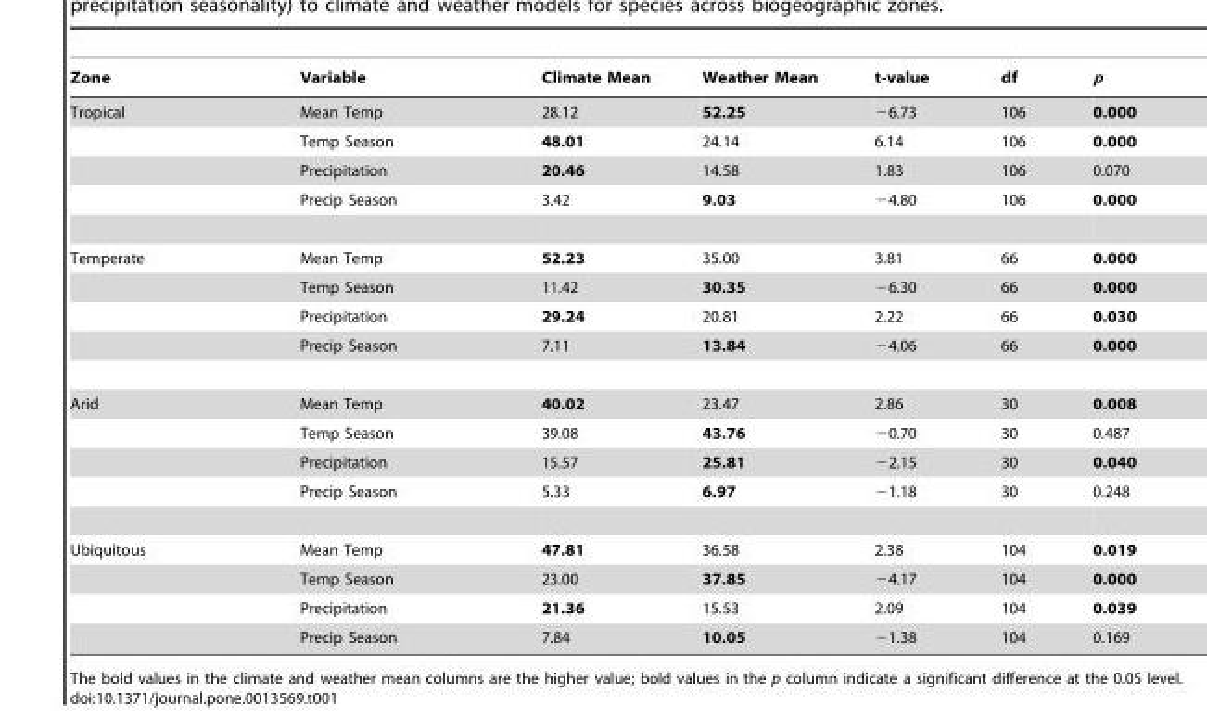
<table><thead><tr><td>Zone</td><td>Variable</td><td>Climate Mean</td><td>Weather Mean</td><td>t-value</td><td>df</td><td>p</td></tr></thead><tbody><tr><td rowspan="4">Tropical</td><td>Mean Temp</td><td>28.12</td><td>52.25</td><td>−6.73</td><td>106</td><td>0.000</td></tr><tr><td>Temp Season</td><td>48.01</td><td>24.14</td><td>6.14</td><td>106</td><td>0.000</td></tr><tr><td>Precipitation</td><td>20.46</td><td>14.58</td><td>1.83</td><td>106</td><td>0.070</td></tr><tr><td>Precip Season</td><td>3.42</td><td>9.03</td><td>−4.80</td><td>106</td><td>0.000</td></tr><tr><td rowspan="4">Temperate</td><td>Mean Temp</td><td>52.23</td><td>35.00</td><td>3.81</td><td>66</td><td>0.000</td></tr><tr><td>Temp Season</td><td>11.42</td><td>30.35</td><td>−6.30</td><td>66</td><td>0.000</td></tr><tr><td>Precipitation</td><td>29.24</td><td>20.81</td><td>2.22</td><td>66</td><td>0.030</td></tr><tr><td>Precip Season</td><td>7.11</td><td>13.84</td><td>−4.06</td><td>66</td><td>0.000</td></tr><tr><td rowspan="4">Arid</td><td>Mean Temp</td><td>40.02</td><td>23.47</td><td>2.86</td><td>30</td><td>0.008</td></tr><tr><td>Temp Season</td><td>39.08</td><td>43.76</td><td>−0.70</td><td>30</td><td>0.487</td></tr><tr><td>Precipitation</td><td>15.57</td><td>25.81</td><td>−2.15</td><td>30</td><td>0.040</td></tr><tr><td>Precip Season</td><td>5.33</td><td>6.97</td><td>−1.18</td><td>30</td><td>0.248</td></tr><tr><td rowspan="4">Ubiquitous</td><td>Mean Temp</td><td>47.81</td><td>36.58</td><td>2.38</td><td>104</td><td>0.019</td></tr><tr><td>Temp Season</td><td>23.00</td><td>37.85</td><td>−4.17</td><td>104</td><td>0.000</td></tr><tr><td>Precipitation</td><td>21.36</td><td>15.53</td><td>2.09</td><td>104</td><td>0.039</td></tr><tr><td>Precip Season</td><td>7.84</td><td>10.05</td><td>−1.38</td><td>104</td><td>0.169</td></tr></tbody></table>